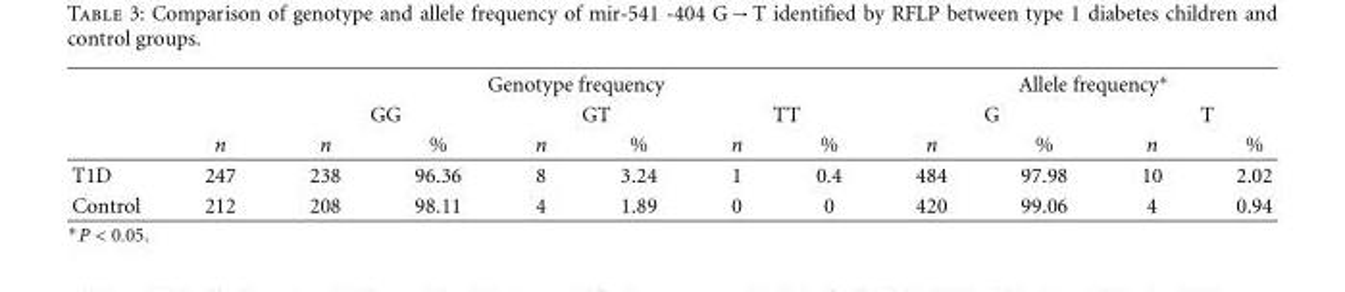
<table><thead><tr><td rowspan="3"></td><td rowspan="3">n</td><td colspan="6">Genotype frequency</td><td colspan="4">Allele frequency∗</td></tr><tr><td colspan="2">GG</td><td colspan="2">GT</td><td colspan="2">TT</td><td colspan="2">G</td><td colspan="2">T</td></tr><tr><td>n</td><td>%</td><td>n</td><td>%</td><td>n</td><td>%</td><td>n</td><td>%</td><td>n</td><td>%</td></tr></thead><tbody><tr><td>T1D</td><td>247</td><td>238</td><td>96.36</td><td>8</td><td>3.24</td><td>1</td><td>0.4</td><td>484</td><td>97.98</td><td>10</td><td>2.02</td></tr><tr><td>Control</td><td>212</td><td>208</td><td>98.11</td><td>4</td><td>1.89</td><td>0</td><td>0</td><td>420</td><td>99.06</td><td>4</td><td>0.94</td></tr></tbody></table>